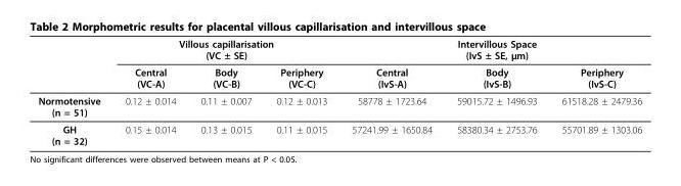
<table><thead><tr><td rowspan="2"></td><td colspan="3">Villous capillarisation (VC ± SE)</td><td colspan="3">Intervillous Space (IvS ± SE, μm)</td></tr><tr><td>Central (VC-A)</td><td>Body (VC-B)</td><td>Periphery (VC-C)</td><td>Central (IvS-A)</td><td>Body (IvS-B)</td><td>Periphery (IvS-C)</td></tr></thead><tbody><tr><td>Normotensive (n = 51)</td><td>0.12 ± 0.014</td><td>0.11 ± 0.007</td><td>0.12 ± 0.013</td><td>58778 ± 1723.64</td><td>59015.72 ± 1496.93</td><td>61518.28 ± 2479.36</td></tr><tr><td>GH (n = 32)</td><td>0.15 ± 0.014</td><td>0.13 ± 0.015</td><td>0.11 ± 0.015</td><td>57241.99 ± 1650.84</td><td>58380.34 ± 2753.76</td><td>55701.89 ± 1303.06</td></tr></tbody></table>